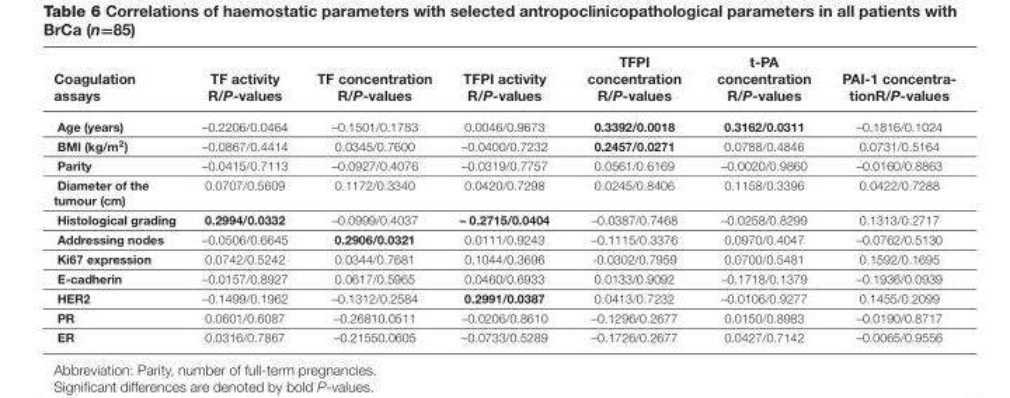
<table><thead><tr><td>Coagulation assays</td><td>TF activity R/P-values</td><td>TF concentration R/P-values</td><td>TFPI activity R/P-values</td><td>TFPI concentration R/P-values</td><td>t-PA concentration R/P-values</td><td>PAI-1 concentra- tionR/P-values</td></tr></thead><tbody><tr><td>Age (years)</td><td>–0.2206/0.0464</td><td>–0.1501/0.1783</td><td>0.0046/0.9673</td><td>0.3392/0.0018</td><td>0.3162/0.0311</td><td>–0.1816/0.1024</td></tr><tr><td>BMI (kg/m<sup>2</sup>)</td><td>–0.0867/0.4414</td><td>0.0345/0.7600</td><td>–0.0400/0.7232</td><td>0.2457/0.0271</td><td>0.0788/0.4846</td><td>0.0731/0.5164</td></tr><tr><td>Parity</td><td>–0.0415/0.7113</td><td>–0.0927/0.4076</td><td>–0.0319/0.7757</td><td>0.0561/0.6169</td><td>–0.0020/0.9860</td><td>–0.0160/0.8863</td></tr><tr><td>Diameter of the tumour (cm)</td><td>0.0707/0.5609</td><td>0.1172/0.3340</td><td>0.0420/0.7298</td><td>0.0245/0.8406</td><td>0.1158/0.3396</td><td>0.0422/0.7288</td></tr><tr><td>Histological grading</td><td>0.2994/0.0332</td><td>–0.0999/0.4037</td><td>– 0.2715/0.0404</td><td>–0.0387/0.7468</td><td>–0.0258/0.8299</td><td>0.1313/0.2717</td></tr><tr><td>Addressing nodes</td><td>–0.0506/0.6645</td><td>0.2906/0.0321</td><td>0.0111/0.9243</td><td>–0.1115/0.3376</td><td>0.0970/0.4047</td><td>–0.0762/0.5130</td></tr><tr><td>Ki67 expression</td><td>0.0742/0.5242</td><td>0.0344/0.7681</td><td>0.1044/0.3696</td><td>-0.0302/0.7959</td><td>0.0700/0.5481</td><td>0.1592/0.1695</td></tr><tr><td>E-cadherin</td><td>–0.0157/0.8927</td><td>0.0617/0.5965</td><td>0.0460/0.6933</td><td>0.0133/0.9092</td><td>–0.1718/0.1379</td><td>–0.1936/0.0939</td></tr><tr><td>HER2</td><td>–0.1499/0.1962</td><td>–0.1312/0.2584</td><td>0.2991/0.0387</td><td>0.0413/0.7232</td><td>–0.0106/0.9277</td><td>0.1455/0.2099</td></tr><tr><td>PR</td><td>0.0601/0.6087</td><td>–0.26810.0511</td><td>–0.0206/0.8610</td><td>–0.1296/0.2677</td><td>0.0150/0.8983</td><td>–0.0190/0.8717</td></tr><tr><td>ER</td><td>0.0316/0.7867</td><td>–0.21550.0605</td><td>–0.0733/0.5289</td><td>–0.1726/0.2677</td><td>0.0427/0.7142</td><td>–0.0065/0.9556</td></tr></tbody></table>